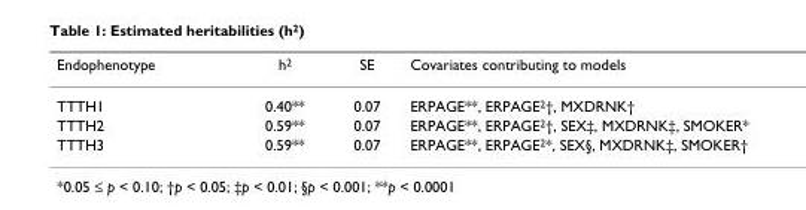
<table><thead><tr><td>Endophenotype</td><td>h2</td><td>SE</td><td>Covariates contributing to models</td></tr></thead><tbody><tr><td>TTTH1</td><td>0.40**</td><td>0.07</td><td>ERPAGE**, ERPAGE2†, MXDRNK†</td></tr><tr><td>TTTH2</td><td>0.59**</td><td>0.07</td><td>ERPAGE**, ERPAGE2†, SEX‡, MXDRNK‡, SMOKER*</td></tr><tr><td>TTTH3</td><td>0.59**</td><td>0.07</td><td>ERPAGE**, ERPAGE2*, SEX§, MXDRNK‡, SMOKER†</td></tr></tbody></table>